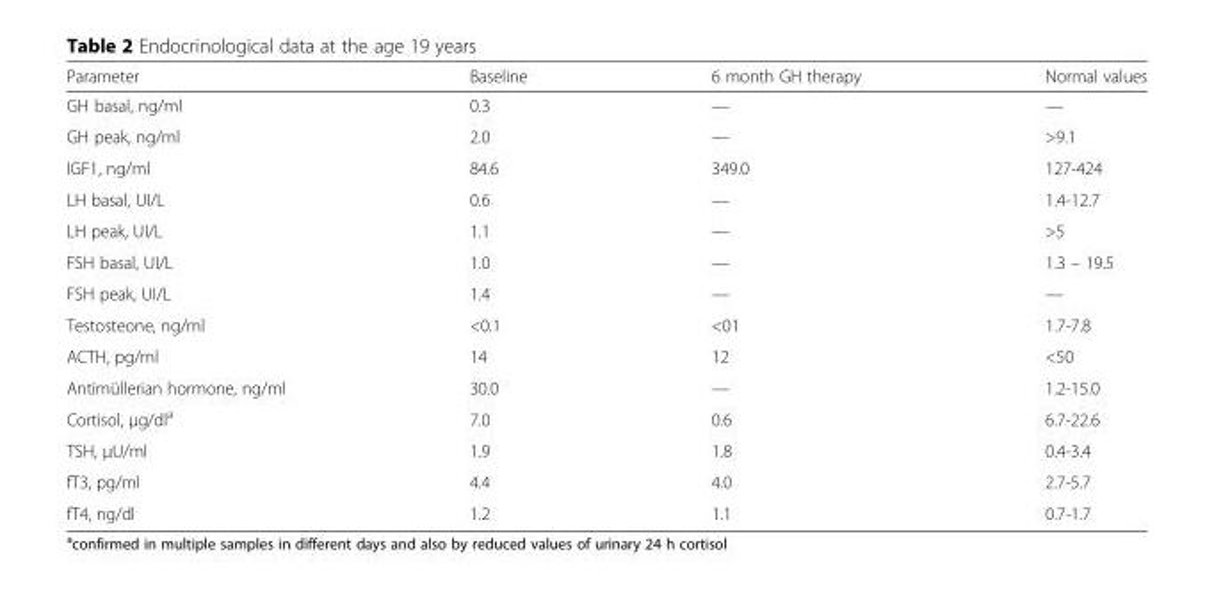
<table><thead><tr><td>Parameter</td><td>Baseline</td><td>6 month GH therapy</td><td>Normal values</td></tr></thead><tbody><tr><td>GH basal, ng/ml</td><td>0.3</td><td>—</td><td>—</td></tr><tr><td>GH peak, ng/ml</td><td>2.0</td><td>—</td><td>&gt;9.1</td></tr><tr><td>IGF1, ng/ml</td><td>84.6</td><td>349.0</td><td>127-424</td></tr><tr><td>LH basal, UI/L</td><td>0.6</td><td>—</td><td>1.4-12.7</td></tr><tr><td>LH peak, UI/L</td><td>1.1</td><td>—</td><td>&gt;5</td></tr><tr><td>FSH basal, UI/L</td><td>1.0</td><td>—</td><td>1.3 – 19.5</td></tr><tr><td>FSH peak, UI/L</td><td>1.4</td><td>—</td><td>—</td></tr><tr><td>Testosteone, ng/ml</td><td>&lt;0.1</td><td>&lt;01</td><td>1.7-7.8</td></tr><tr><td>ACTH, pg/ml</td><td>14</td><td>12</td><td>&lt;50</td></tr><tr><td>Antimüllerian hormone, ng/ml</td><td>30.0</td><td>—</td><td>1.2-15.0</td></tr><tr><td>Cortisol, μg/dl<sup>a</sup></td><td>7.0</td><td>0.6</td><td>6.7-22.6</td></tr><tr><td>TSH, μU/ml</td><td>1.9</td><td>1.8</td><td>0.4-3.4</td></tr><tr><td>fT3, pg/ml</td><td>4.4</td><td>4.0</td><td>2.7-5.7</td></tr><tr><td>fT4, ng/dl</td><td>1.2</td><td>1.1</td><td>0.7-1.7</td></tr></tbody></table>